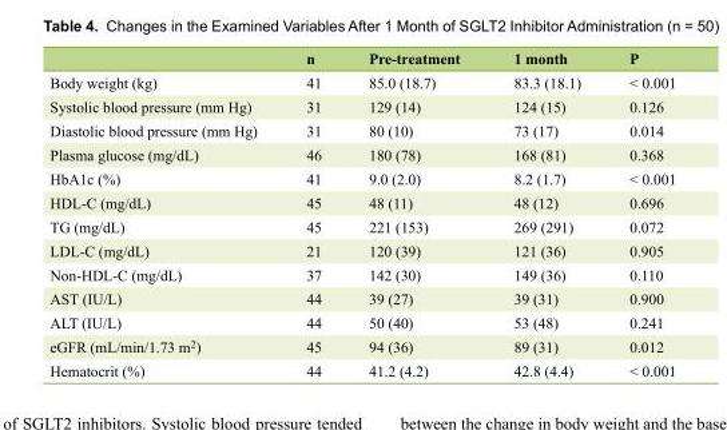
<table><thead><tr><td></td><td>n</td><td>Pre-treatment</td><td>1 month</td><td>P</td></tr></thead><tbody><tr><td>Body weight (kg)</td><td>41</td><td>85.0 (18.7)</td><td>83.3 (18.1)</td><td>&lt; 0.001</td></tr><tr><td>Systolic blood pressure (mm Hg)</td><td>31</td><td>129 (14)</td><td>124 (15)</td><td>0.126</td></tr><tr><td>Diastolic blood pressure (mm Hg)</td><td>31</td><td>80 (10)</td><td>73 (17)</td><td>0.014</td></tr><tr><td>Plasma glucose (mg/dL)</td><td>46</td><td>180 (78)</td><td>168 (81)</td><td>0.368</td></tr><tr><td>HbA1c (%)</td><td>41</td><td>9.0 (2.0)</td><td>8.2 (1.7)</td><td>&lt; 0.001</td></tr><tr><td>HDL-C (mg/dL)</td><td>45</td><td>48 (11)</td><td>48 (12)</td><td>0.696</td></tr><tr><td>TG (mg/dL)</td><td>45</td><td>221 (153)</td><td>269 (291)</td><td>0.072</td></tr><tr><td>LDL-C (mg/dL)</td><td>21</td><td>120 (39)</td><td>121 (36)</td><td>0.905</td></tr><tr><td>Non-HDL-C (mg/dL)</td><td>37</td><td>142 (30)</td><td>149 (36)</td><td>0.110</td></tr><tr><td>AST (IU/L)</td><td>44</td><td>39 (27)</td><td>39 (31)</td><td>0.900</td></tr><tr><td>ALT (IU/L)</td><td>44</td><td>50 (40)</td><td>53 (48)</td><td>0.241</td></tr><tr><td>eGFR (mL/min/1.73 m<sup>2</sup>)</td><td>45</td><td>94 (36)</td><td>89 (31)</td><td>0.012</td></tr><tr><td>Hematocrit (%)</td><td>44</td><td>41.2 (4.2)</td><td>42.8 (4.4)</td><td>&lt; 0.001</td></tr></tbody></table>